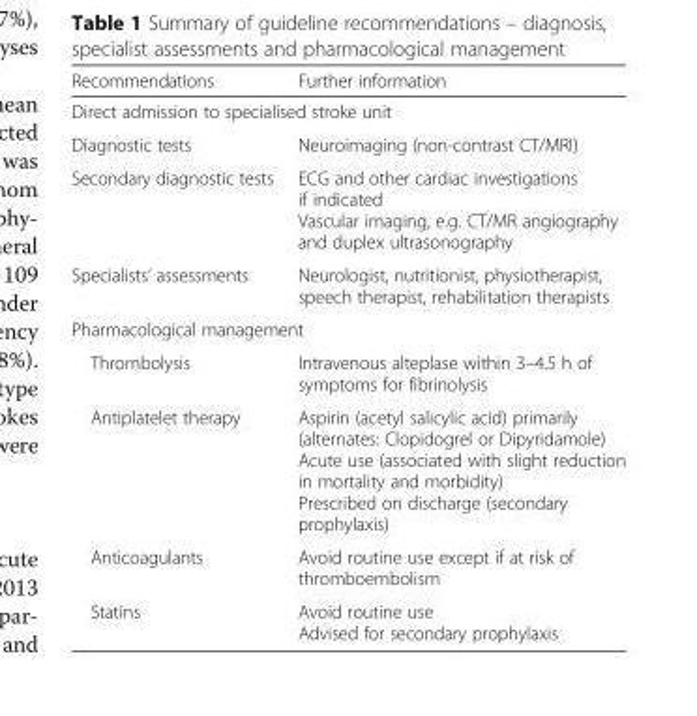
<table><thead><tr><td>Recommendations</td><td>Further information</td></tr></thead><tbody><tr><td colspan="2">Direct admission to specialised stroke unit</td></tr><tr><td>Diagnostic tests</td><td>Neuroimaging (non-contrast CT/MRI)</td></tr><tr><td>Secondary diagnostic tests</td><td>ECG and other cardiac investigations if indicated Vascular imaging, e.g. CT/MR angiography and duplex ultrasonography</td></tr><tr><td>Specialists’ assessments</td><td>Neurologist, nutritionist, physiotherapist, speech therapist, rehabilitation therapists</td></tr><tr><td colspan="2">Pharmacological management</td></tr><tr><td>Thrombolysis</td><td>Intravenous alteplase within 3–4.5 h of symptoms for fibrinolysis</td></tr><tr><td>Antiplatelet therapy</td><td>Aspirin (acetyl salicylic acid) primarily (alternates: Clopidogrel or Dipyridamole) Acute use (associated with slight reduction in mortality and morbidity) Prescribed on discharge (secondary prophylaxis)</td></tr><tr><td>Anticoagulants</td><td>Avoid routine use except if at risk of thromboembolism</td></tr><tr><td>Statins</td><td>Avoid routine use Advised for secondary prophylaxis</td></tr></tbody></table>